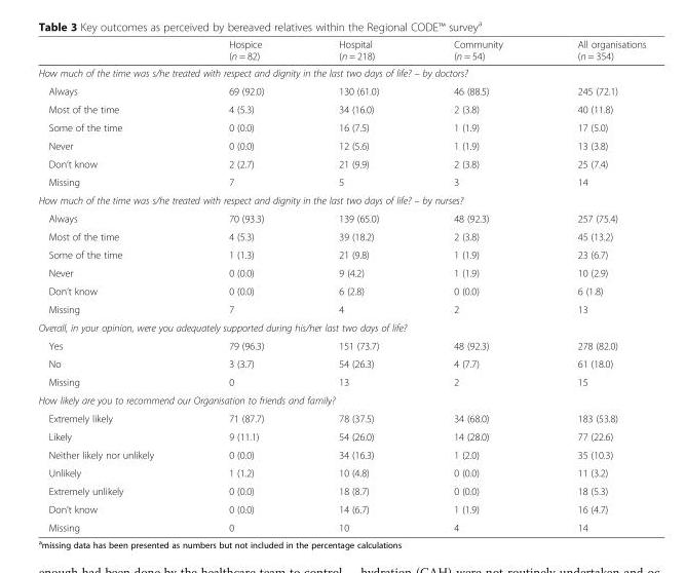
<table><thead><tr><td></td><td>Hospice (n = 82)</td><td>Hospital (n = 218)</td><td>Community (n = 54)</td><td>All organisations (n = 354)</td></tr></thead><tbody><tr><td colspan="5">How much of the time was s/he treated with respect and dignity in the last two days of life? – by doctors?</td></tr><tr><td>Always</td><td>69 (92.0)</td><td>130 (61.0)</td><td>46 (88.5)</td><td>245 (72.1)</td></tr><tr><td>Most of the time</td><td>4 (5.3)</td><td>34 (16.0)</td><td>2 (3.8)</td><td>40 (11.8)</td></tr><tr><td>Some of the time</td><td>0 (0.0)</td><td>16 (7.5)</td><td>1 (1.9)</td><td>17 (5.0)</td></tr><tr><td>Never</td><td>0 (0.0)</td><td>12 (5.6)</td><td>1 (1.9)</td><td>13 (3.8)</td></tr><tr><td>Don’t know</td><td>2 (2.7)</td><td>21 (9.9)</td><td>2 (3.8)</td><td>25 (7.4)</td></tr><tr><td>Missing</td><td>7</td><td>5</td><td>3</td><td>14</td></tr><tr><td colspan="5">How much of the time was s/he treated with respect and dignity in the last two days of life? – by nurses?</td></tr><tr><td>Always</td><td>70 (93.3)</td><td>139 (65.0)</td><td>48 (92.3)</td><td>257 (75.4)</td></tr><tr><td>Most of the time</td><td>4 (5.3)</td><td>39 (18.2)</td><td>2 (3.8)</td><td>45 (13.2)</td></tr><tr><td>Some of the time</td><td>1 (1.3)</td><td>21 (9.8)</td><td>1 (1.9)</td><td>23 (6.7)</td></tr><tr><td>Never</td><td>0 (0.0)</td><td>9 (4.2)</td><td>1 (1.9)</td><td>10 (2.9)</td></tr><tr><td>Don’t know</td><td>0 (0.0)</td><td>6 (2.8)</td><td>0 (0.0)</td><td>6 (1.8)</td></tr><tr><td>Missing</td><td>7</td><td>4</td><td>2</td><td>13</td></tr><tr><td colspan="5">Overall, in your opinion, were you adequately supported during his/her last two days of life?</td></tr><tr><td>Yes</td><td>79 (96.3)</td><td>151 (73.7)</td><td>48 (92.3)</td><td>278 (82.0)</td></tr><tr><td>No</td><td>3 (3.7)</td><td>54 (26.3)</td><td>4 (7.7)</td><td>61 (18.0)</td></tr><tr><td>Missing</td><td>0</td><td>13</td><td>2</td><td>15</td></tr><tr><td colspan="5">How likely are you to recommend our Organisation to friends and family?</td></tr><tr><td>Extremely likely</td><td>71 (87.7)</td><td>78 (37.5)</td><td>34 (68.0)</td><td>183 (53.8)</td></tr><tr><td>Likely</td><td>9 (11.1)</td><td>54 (26.0)</td><td>14 (28.0)</td><td>77 (22.6)</td></tr><tr><td>Neither likely nor unlikely</td><td>0 (0.0)</td><td>34 (16.3)</td><td>1 (2.0)</td><td>35 (10.3)</td></tr><tr><td>Unlikely</td><td>1 (1.2)</td><td>10 (4.8)</td><td>0 (0.0)</td><td>11 (3.2)</td></tr><tr><td>Extremely unlikely</td><td>0 (0.0)</td><td>18 (8.7)</td><td>0 (0.0)</td><td>18 (5.3)</td></tr><tr><td>Don’t know</td><td>0 (0.0)</td><td>14 (6.7)</td><td>1 (1.9)</td><td>16 (4.7)</td></tr><tr><td>Missing</td><td>0</td><td>10</td><td>4</td><td>14</td></tr></tbody></table>